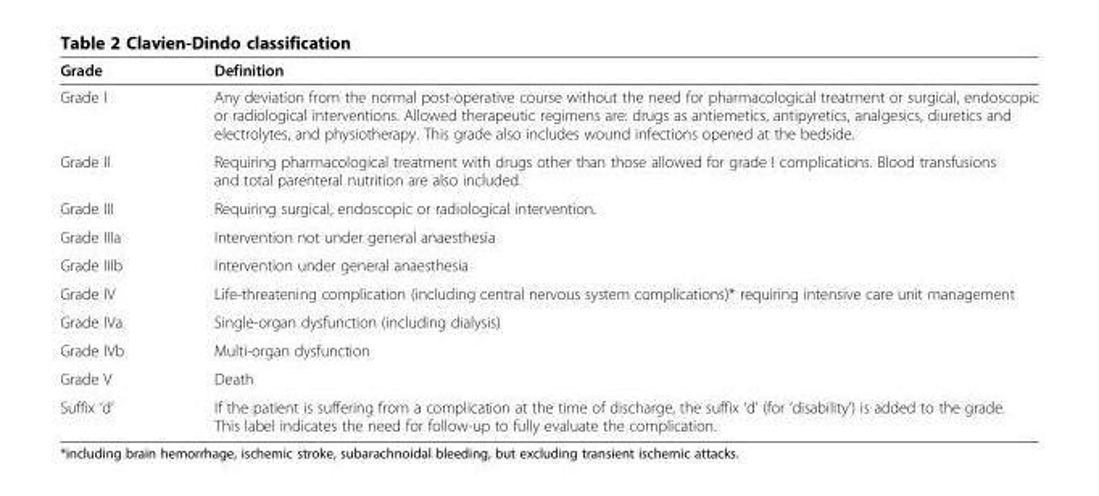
<table><thead><tr><td>Grade</td><td>Definition</td></tr></thead><tbody><tr><td>Grade I</td><td>Any deviation from the normal post-operative course without the need for pharmacological treatment or surgical, endoscopic or radiological interventions. Allowed therapeutic regimens are: drugs as antiemetics, antipyretics, analgesics, diuretics and electrolytes, and physiotherapy. This grade also includes wound infections opened at the bedside.</td></tr><tr><td>Grade II</td><td>Requiring pharmacological treatment with drugs other than those allowed for grade I complications. Blood transfusions and total parenteral nutrition are also included.</td></tr><tr><td>Grade III</td><td>Requiring surgical, endoscopic or radiological intervention.</td></tr><tr><td>Grade IIIa</td><td>Intervention not under general anaesthesia</td></tr><tr><td>Grade IIIb</td><td>Intervention under general anaesthesia</td></tr><tr><td>Grade IV</td><td>Life-threatening complication (including central nervous system complications)* requiring intensive care unit management</td></tr><tr><td>Grade IVa</td><td>Single-organ dysfunction (including dialysis)</td></tr><tr><td>Grade IVb</td><td>Multi-organ dysfunction</td></tr><tr><td>Grade V</td><td>Death</td></tr><tr><td>Suffix ‘d’</td><td>If the patient is suffering from a complication at the time of discharge, the suffix ‘d’ (for ‘disability’) is added to the grade. This label indicates the need for follow-up to fully evaluate the complication.</td></tr></tbody></table>